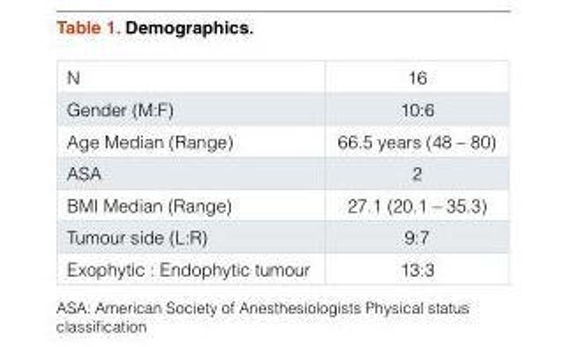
<table><tbody><tr><td>N</td><td>16</td></tr><tr><td>Gender (M:F)</td><td>10:6</td></tr><tr><td>Age Median (Range)</td><td>66.5 years (48 – 80)</td></tr><tr><td>ASA</td><td>2</td></tr><tr><td>BMI Median (Range)</td><td>27.1 (20.1 – 35.3)</td></tr><tr><td>Tumour side (L:R)</td><td>9:7</td></tr><tr><td>Exophytic : Endophytic tumour</td><td>13:3</td></tr></tbody></table>